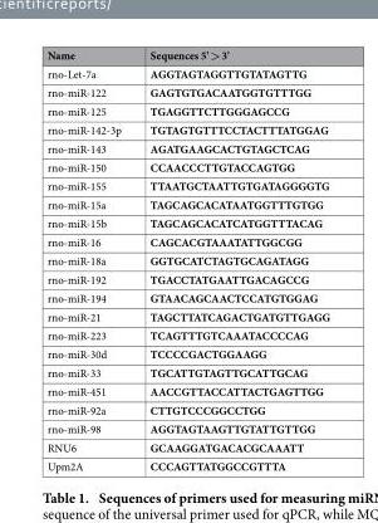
<table><thead><tr><td>Name</td><td>Sequences 5&#x27; &gt; 3&#x27;</td></tr></thead><tbody><tr><td>rno-Let-7a</td><td>AGGTAGTAGGTTGTATAGTTG</td></tr><tr><td>rno-miR-122</td><td>GAGTGTGACAATGGTGTTTGG</td></tr><tr><td>rno-miR-125</td><td>TGAGGTTCTTGGGAGCCG</td></tr><tr><td>rno-miR-142-3p</td><td>TGTAGTGTTTCCTACTTTATGGAG</td></tr><tr><td>rno-miR-143</td><td>AGATGAAGCACTGTAGCTCAG</td></tr><tr><td>rno-miR-150</td><td>CCAACCCTTGTACCAGTGG</td></tr><tr><td>rno-miR-155</td><td>TTAATGCTAATTGTGATAGGGGTG</td></tr><tr><td>rno-miR-15a</td><td>TAGCAGCACATAATGGTTTGTGG</td></tr><tr><td>rno-miR-15b</td><td>TAGCAGCACATCATGGTTTACAG</td></tr><tr><td>rno-miR-16</td><td>CAGCACGTAAATATTGGCGG</td></tr><tr><td>rno-miR-18a</td><td>GGTGCATCTAGTGCAGATAGG</td></tr><tr><td>rno-miR-192</td><td>TGACCTATGAATTGACAGCCG</td></tr><tr><td>rno-miR-194</td><td>GTAACAGCAACTCCATGTGGAG</td></tr><tr><td>rno-miR-21</td><td>TAGCTTATCAGACTGATGTTGAGG</td></tr><tr><td>rno-miR-223</td><td>TCAGTTTGTCAAATACCCCAG</td></tr><tr><td>rno-miR-30d</td><td>TCCCCGACTGGAAGG</td></tr><tr><td>rno-miR-33</td><td>TGCATTGTAGTTGCATTGCAG</td></tr><tr><td>rno-miR-451</td><td>AACCGTTACCATTACTGAGTTGG</td></tr><tr><td>rno-miR-92a</td><td>CTTGTCCCGGCCTGG</td></tr><tr><td>rno-miR-98</td><td>AGGTAGTAAGTTGTATTGTTGG</td></tr><tr><td>RNU6</td><td>GCAAGGATGACACGCAAATT</td></tr><tr><td>Upm2A</td><td>CCCAGTTATGGCCGTTTA</td></tr></tbody></table>